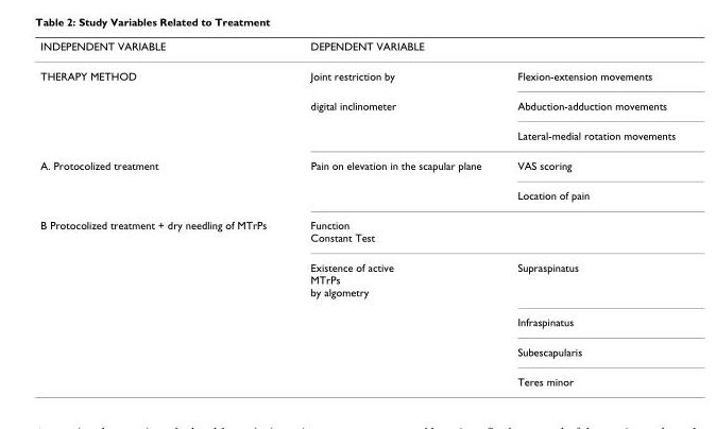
<table><thead><tr><td rowspan="2">INDEPENDENT VARIABLE THERAPY METHOD</td><td colspan="2">DEPENDENT VARIABLE</td></tr><tr><td>Joint restriction by</td><td>Flexion-extension movements</td></tr></thead><tbody><tr><td></td><td>digital inclinometer</td><td>Abduction-adduction movements</td></tr><tr><td></td><td></td><td>Lateral-medial rotation movements</td></tr><tr><td rowspan="2">A. Protocolized treatment</td><td>Pain on elevation in the scapular plane</td><td>VAS scoring</td></tr><tr><td></td><td>Location of pain</td></tr><tr><td rowspan="5">B Protocolized treatment + dry needling of MTrPs</td><td>Function Constant Test</td><td></td></tr><tr><td>Existence of active MTrPs by algometry</td><td>Supraspinatus</td></tr><tr><td></td><td>Infraspinatus</td></tr><tr><td></td><td>Subescapularis</td></tr><tr><td></td><td>Teres minor</td></tr></tbody></table>